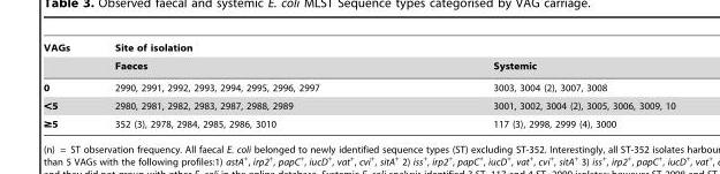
<table><thead><tr><td rowspan="2">VAGs</td><td colspan="2">Site of isolation</td></tr><tr><td>Faeces</td><td>Systemic</td></tr></thead><tbody><tr><td>0</td><td>2990, 2991, 2992, 2993, 2994, 2995, 2996, 2997</td><td>3003, 3004 (2), 3007, 3008</td></tr><tr><td>&lt;5</td><td>2980, 2981, 2982, 2983, 2987, 2988, 2989</td><td>3001, 3002, 3004 (2), 3005, 3006, 3009, 10</td></tr><tr><td>≥5</td><td>352 (3), 2978, 2984, 2985, 2986, 3010</td><td>117 (3), 2998, 2999 (4), 3000</td></tr></tbody></table>